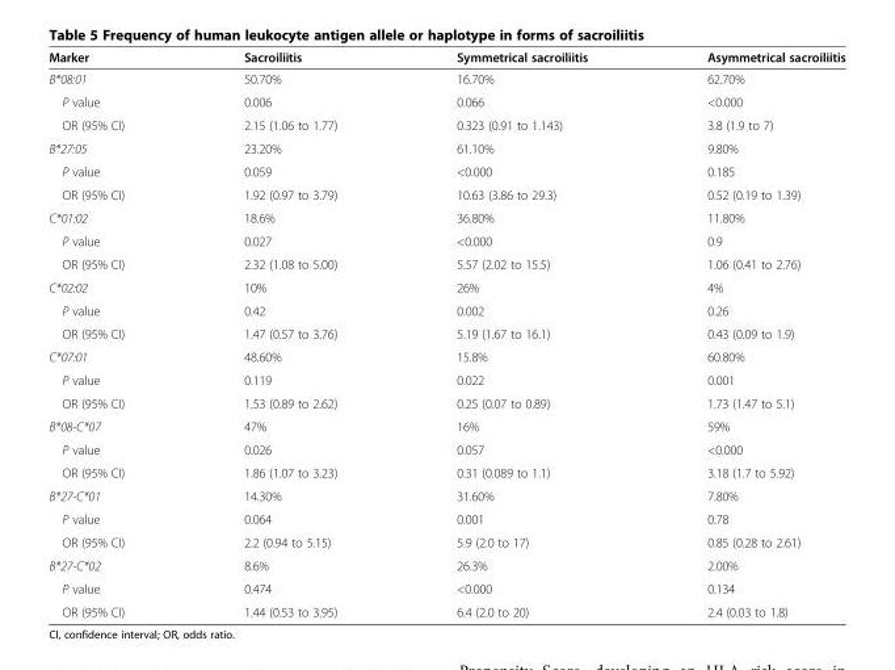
<table><thead><tr><td>Marker</td><td>Sacroiliitis</td><td>Symmetrical sacroiliitis</td><td>Asymmetrical sacroiliitis</td></tr></thead><tbody><tr><td>B*08:01</td><td>50.70%</td><td>16.70%</td><td>62.70%</td></tr><tr><td>P value</td><td>0.006</td><td>0.066</td><td>&lt;0.000</td></tr><tr><td>OR (95% CI)</td><td>2.15 (1.06 to 1.77)</td><td>0.323 (0.91 to 1.143)</td><td>3.8 (1.9 to 7)</td></tr><tr><td>B*27:05</td><td>23.20%</td><td>61.10%</td><td>9.80%</td></tr><tr><td>P value</td><td>0.059</td><td>&lt;0.000</td><td>0.185</td></tr><tr><td>OR (95% CI)</td><td>1.92 (0.97 to 3.79)</td><td>10.63 (3.86 to 29.3)</td><td>0.52 (0.19 to 1.39)</td></tr><tr><td>C*01:02</td><td>18.6%</td><td>36.80%</td><td>11.80%</td></tr><tr><td>P value</td><td>0.027</td><td>&lt;0.000</td><td>0.9</td></tr><tr><td>OR (95% CI)</td><td>2.32 (1.08 to 5.00)</td><td>5.57 (2.02 to 15.5)</td><td>1.06 (0.41 to 2.76)</td></tr><tr><td>C*02:02</td><td>10%</td><td>26%</td><td>4%</td></tr><tr><td>P value</td><td>0.42</td><td>0.002</td><td>0.26</td></tr><tr><td>OR (95% CI)</td><td>1.47 (0.57 to 3.76)</td><td>5.19 (1.67 to 16.1)</td><td>0.43 (0.09 to 1.9)</td></tr><tr><td>C*07:01</td><td>48.60%</td><td>15.8%</td><td>60.80%</td></tr><tr><td>P value</td><td>0.119</td><td>0.022</td><td>0.001</td></tr><tr><td>OR (95% CI)</td><td>1.53 (0.89 to 2.62)</td><td>0.25 (0.07 to 0.89)</td><td>1.73 (1.47 to 5.1)</td></tr><tr><td>B*08-C*07</td><td>47%</td><td>16%</td><td>59%</td></tr><tr><td>P value</td><td>0.026</td><td>0.057</td><td>&lt;0.000</td></tr><tr><td>OR (95% CI)</td><td>1.86 (1.07 to 3.23)</td><td>0.31 (0.089 to 1.1)</td><td>3.18 (1.7 to 5.92)</td></tr><tr><td>B*27-C*01</td><td>14.30%</td><td>31.60%</td><td>7.80%</td></tr><tr><td>P value</td><td>0.064</td><td>0.001</td><td>0.78</td></tr><tr><td>OR (95% CI)</td><td>2.2 (0.94 to 5.15)</td><td>5.9 (2.0 to 17)</td><td>0.85 (0.28 to 2.61)</td></tr><tr><td>B*27-C*02</td><td>8.6%</td><td>26.3%</td><td>2.00%</td></tr><tr><td>P value</td><td>0.474</td><td>&lt;0.000</td><td>0.134</td></tr><tr><td>OR (95% CI)</td><td>1.44 (0.53 to 3.95)</td><td>6.4 (2.0 to 20)</td><td>2.4 (0.03 to 1.8)</td></tr></tbody></table>